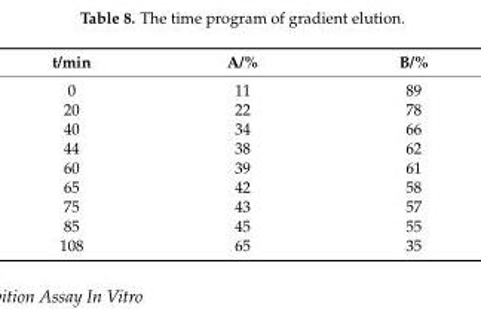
<table><thead><tr><td>t/min</td><td>A/%</td><td>B/%</td></tr></thead><tbody><tr><td>0</td><td>11</td><td>89</td></tr><tr><td>20</td><td>22</td><td>78</td></tr><tr><td>40</td><td>34</td><td>66</td></tr><tr><td>44</td><td>38</td><td>62</td></tr><tr><td>60</td><td>39</td><td>61</td></tr><tr><td>65</td><td>42</td><td>58</td></tr><tr><td>75</td><td>43</td><td>57</td></tr><tr><td>85</td><td>45</td><td>55</td></tr><tr><td>108</td><td>65</td><td>35</td></tr></tbody></table>